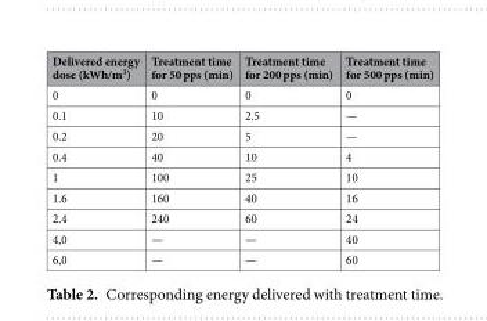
<table><thead><tr><td>Delivered energy dose (kWh/m<sup>3</sup>)</td><td>Treatment time for 50 pps (min)</td><td>Treatment time for 200 pps (min)</td><td>Treatment time for 500 pps (min)</td></tr></thead><tbody><tr><td>0</td><td>0</td><td>0</td><td>0</td></tr><tr><td>0.1</td><td>10</td><td>2.5</td><td>—</td></tr><tr><td>0.2</td><td>20</td><td>5</td><td>—</td></tr><tr><td>0.4</td><td>40</td><td>10</td><td>4</td></tr><tr><td>1</td><td>100</td><td>25</td><td>10</td></tr><tr><td>1.6</td><td>160</td><td>40</td><td>16</td></tr><tr><td>2.4</td><td>240</td><td>60</td><td>24</td></tr><tr><td>4,0</td><td>—</td><td>—</td><td>40</td></tr><tr><td>6,0</td><td>—</td><td>—</td><td>60</td></tr></tbody></table>